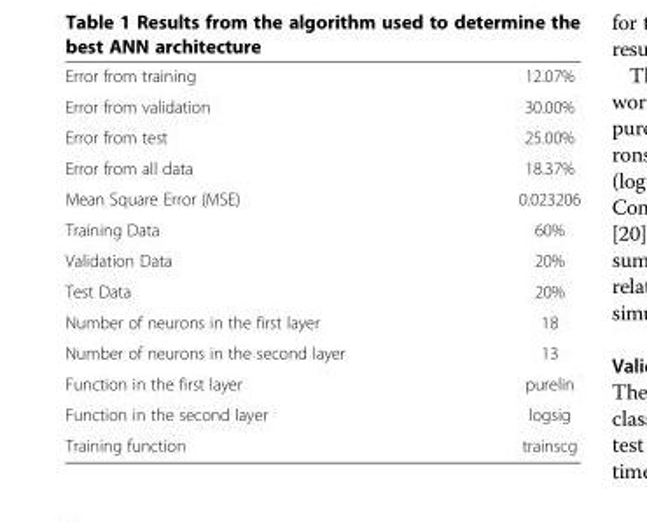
<table><tbody><tr><td>Error from training</td><td>12.07%</td></tr><tr><td>Error from validation</td><td>30.00%</td></tr><tr><td>Error from test</td><td>25.00%</td></tr><tr><td>Error from all data</td><td>18.37%</td></tr><tr><td>Mean Square Error (MSE)</td><td>0.023206</td></tr><tr><td>Training Data</td><td>60%</td></tr><tr><td>Validation Data</td><td>20%</td></tr><tr><td>Test Data</td><td>20%</td></tr><tr><td>Number of neurons in the first layer</td><td>18</td></tr><tr><td>Number of neurons in the second layer</td><td>13</td></tr><tr><td>Function in the first layer</td><td>purelin</td></tr><tr><td>Function in the second layer</td><td>logsig</td></tr><tr><td>Training function</td><td>trainscg</td></tr></tbody></table>